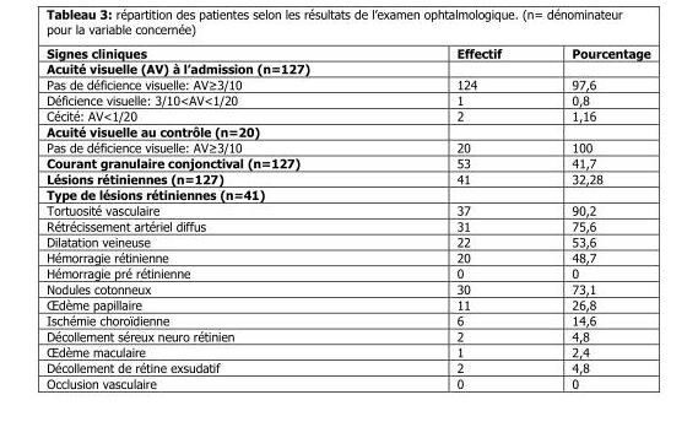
<table><thead><tr><td>Signes cliniques</td><td>Effectif</td><td>Pourcentage</td></tr></thead><tbody><tr><td colspan="3">Acuité visuelle (AV) à l’admission (n=127)</td></tr><tr><td>Pas de déficience visuelle: AV≥3/10</td><td>124</td><td>97,6</td></tr><tr><td>Déficience visuelle: 3/10&lt;AV&lt;1/20</td><td>1</td><td>0,8</td></tr><tr><td>Cécité: AV&lt;1/20</td><td>2</td><td>1,16</td></tr><tr><td colspan="3">Acuité visuelle au contrôle (n=20)</td></tr><tr><td>Pas de déficience visuelle: AV≥3/10</td><td>20</td><td>100</td></tr><tr><td>Courant granulaire conjonctival (n=127)</td><td>53</td><td>41,7</td></tr><tr><td>Lésions rétiniennes (n=127)</td><td>41</td><td>32,28</td></tr><tr><td colspan="3">Type de lésions rétiniennes (n=41)</td></tr><tr><td>Tortuosité vasculaire</td><td>37</td><td>90,2</td></tr><tr><td>Rétrécissement artériel diffus</td><td>31</td><td>75,6</td></tr><tr><td>Dilatation veineuse</td><td>22</td><td>53,6</td></tr><tr><td>Hémorragie rétinienne</td><td>20</td><td>48,7</td></tr><tr><td>Hémorragie pré rétinienne</td><td>0</td><td>0</td></tr><tr><td>Nodules cotonneux</td><td>30</td><td>73,1</td></tr><tr><td>Œdème papillaire</td><td>11</td><td>26,8</td></tr><tr><td>Ischémie choroïdienne</td><td>6</td><td>14,6</td></tr><tr><td>Décollement séreux neuro rétinien</td><td>2</td><td>4,8</td></tr><tr><td>Œdème maculaire</td><td>1</td><td>2,4</td></tr><tr><td>Décollement de rétine exsudatif</td><td>2</td><td>4,8</td></tr><tr><td>Occlusion vasculaire</td><td>0</td><td>0</td></tr></tbody></table>